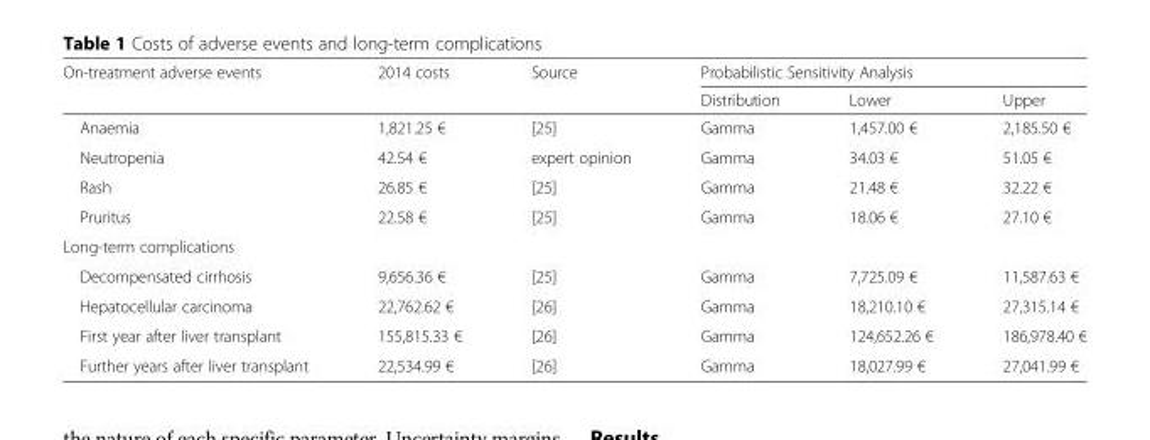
<table><thead><tr><td rowspan="2">On-treatment adverse events</td><td rowspan="2">2014 costs</td><td rowspan="2">Source</td><td colspan="3">Probabilistic Sensitivity Analysis</td></tr><tr><td>Distribution</td><td>Lower</td><td>Upper</td></tr></thead><tbody><tr><td>Anaemia</td><td>1,821.25 €</td><td>[25]</td><td>Gamma</td><td>1,457.00 €</td><td>2,185.50 €</td></tr><tr><td>Neutropenia</td><td>42.54 €</td><td>expert opinion</td><td>Gamma</td><td>34.03 €</td><td>51.05 €</td></tr><tr><td>Rash</td><td>26.85 €</td><td>[25]</td><td>Gamma</td><td>21.48 €</td><td>32.22 €</td></tr><tr><td>Pruritus</td><td>22.58 €</td><td>[25]</td><td>Gamma</td><td>18.06 €</td><td>27.10 €</td></tr><tr><td colspan="6">Long-term complications</td></tr><tr><td>Decompensated cirrhosis</td><td>9,656.36 €</td><td>[25]</td><td>Gamma</td><td>7,725.09 €</td><td>11,587.63 €</td></tr><tr><td>Hepatocellular carcinoma</td><td>22,762.62 €</td><td>[26]</td><td>Gamma</td><td>18,210.10 €</td><td>27,315.14 €</td></tr><tr><td>First year after liver transplant</td><td>155,815.33 €</td><td>[26]</td><td>Gamma</td><td>124,652.26 €</td><td>186,978.40 €</td></tr><tr><td>Further years after liver transplant</td><td>22,534.99 €</td><td>[26]</td><td>Gamma</td><td>18,027.99 €</td><td>27,041.99 €</td></tr></tbody></table>